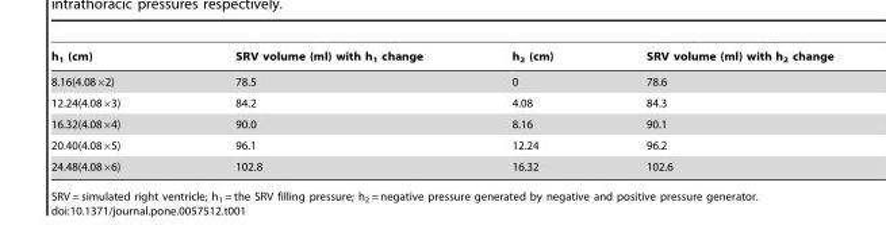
<table><thead><tr><td>h<sub>1</sub> (cm)</td><td>SRV volume (ml) with h<sub>1</sub> change</td><td>h<sub>2</sub> (cm)</td><td>SRV volume (ml) with h<sub>2</sub> change</td></tr></thead><tbody><tr><td>8.16(4.08×2)</td><td>78.5</td><td>0</td><td>78.6</td></tr><tr><td>12.24(4.08×3)</td><td>84.2</td><td>4.08</td><td>84.3</td></tr><tr><td>16.32(4.08×4)</td><td>90.0</td><td>8.16</td><td>90.1</td></tr><tr><td>20.40(4.08×5)</td><td>96.1</td><td>12.24</td><td>96.2</td></tr><tr><td>24.48(4.08×6)</td><td>102.8</td><td>16.32</td><td>102.6</td></tr></tbody></table>